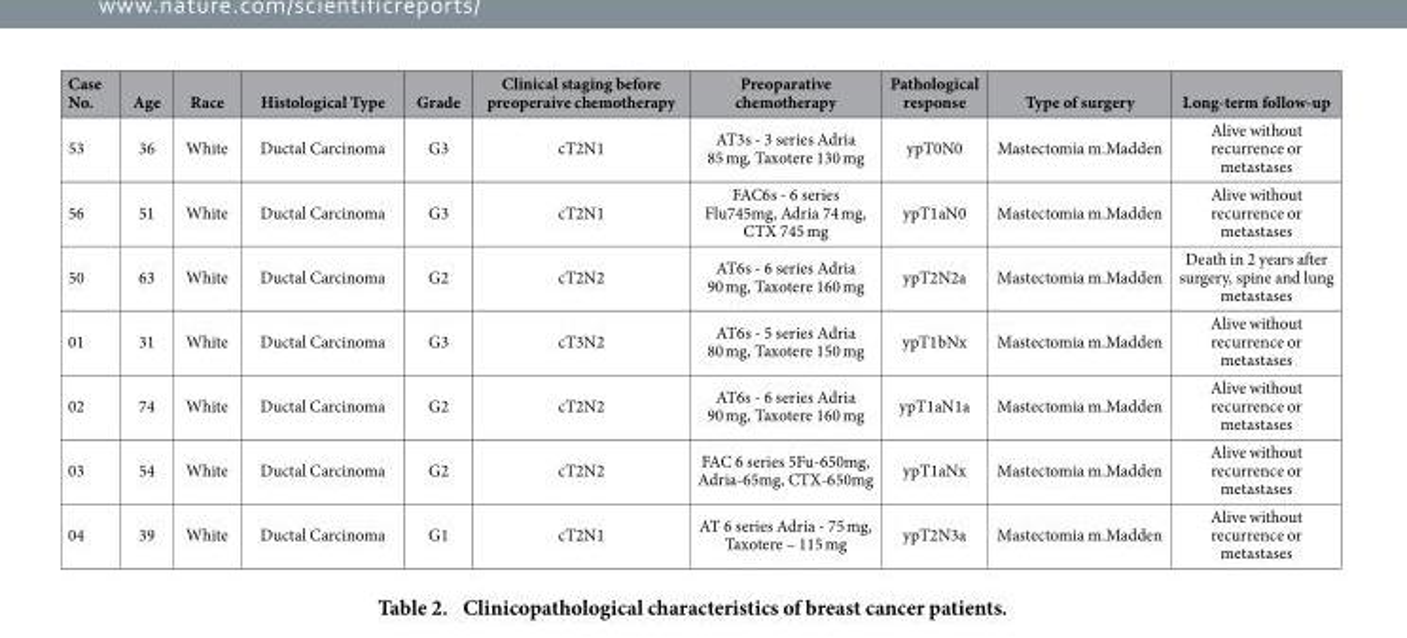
<table><thead><tr><td>Case No.</td><td>Age</td><td>Race</td><td>Histological Type</td><td>Grade</td><td>Clinical staging before preoperaive chemotherapy</td><td>Preoparative chemotherapy</td><td>Pathological response</td><td>Type of surgery</td><td>Long-term follow-up</td></tr></thead><tbody><tr><td>53</td><td>36</td><td>White</td><td>Ductal Carcinoma</td><td>G3</td><td>cT2N1</td><td>AT3s - 3 series Adria 85 mg, Taxotere 130 mg</td><td>ypT0N0</td><td>Mastectomia m.Madden</td><td>Alive without recurrence or metastases</td></tr><tr><td>56</td><td>51</td><td>White</td><td>Ductal Carcinoma</td><td>G3</td><td>cT2N1</td><td>FAC6s - 6 series Flu745mg, Adria 74 mg, CTX 745 mg</td><td>ypT1aN0</td><td>Mastectomia m.Madden</td><td>Alive without recurrence or metastases</td></tr><tr><td>50</td><td>63</td><td>White</td><td>Ductal Carcinoma</td><td>G2</td><td>cT2N2</td><td>AT6s - 6 series Adria 90 mg, Taxotere 160 mg</td><td>ypT2N2a</td><td>Mastectomia m.Madden</td><td>Death in 2 years after surgery, spine and lung metastases</td></tr><tr><td>01</td><td>31</td><td>White</td><td>Ductal Carcinoma</td><td>G3</td><td>cT3N2</td><td>AT6s - 5 series Adria 80 mg, Taxotere 150 mg</td><td>ypT1bNx</td><td>Mastectomia m.Madden</td><td>Alive without recurrence or metastases</td></tr><tr><td>02</td><td>74</td><td>White</td><td>Ductal Carcinoma</td><td>G2</td><td>cT2N2</td><td>AT6s - 6 series Adria 90 mg, Taxotere 160 mg</td><td>ypT1aN1a</td><td>Mastectomia m.Madden</td><td>Alive without recurrence or metastases</td></tr><tr><td>03</td><td>54</td><td>White</td><td>Ductal Carcinoma</td><td>G2</td><td>cT2N2</td><td>FAC 6 series 5Fu-650mg, Adria-65mg, CTX-650mg</td><td>ypT1aNx</td><td>Mastectomia m.Madden</td><td>Alive without recurrence or metastases</td></tr><tr><td>04</td><td>39</td><td>White</td><td>Ductal Carcinoma</td><td>G1</td><td>cT2N1</td><td>AT 6 series Adria - 75 mg, Taxotere – 115 mg</td><td>ypT2N3a</td><td>Mastectomia m.Madden</td><td>Alive without recurrence or metastases</td></tr></tbody></table>